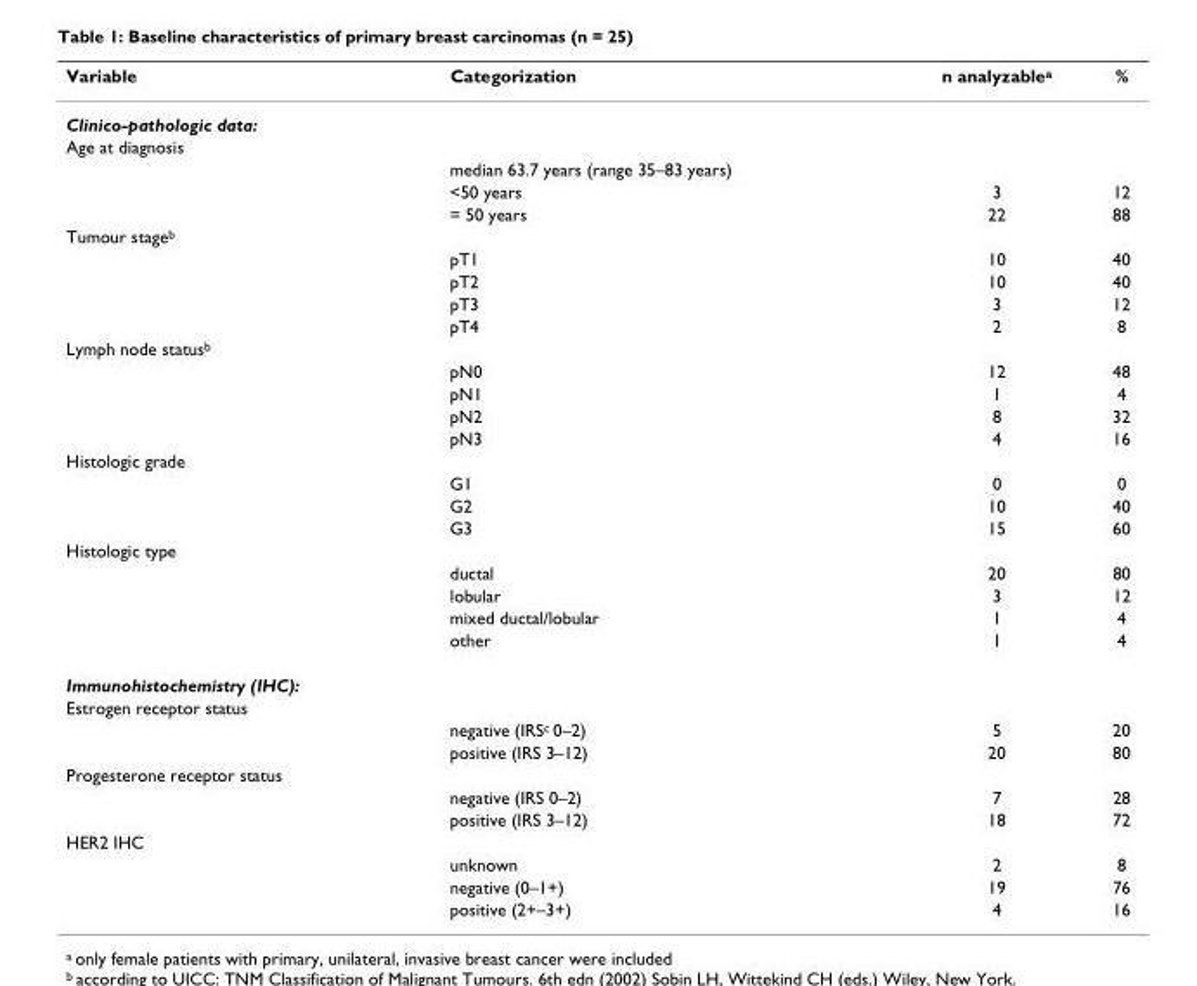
<table><thead><tr><td>Variable</td><td>Categorization</td><td>n analyzable<sup>a</sup></td><td>%</td></tr></thead><tbody><tr><td colspan="4">Clinico-pathologic data:</td></tr><tr><td colspan="4">Age at diagnosis</td></tr><tr><td></td><td>median 63.7 years (range 35–83 years)</td><td></td><td></td></tr><tr><td></td><td>&lt;50 years</td><td>3</td><td>12</td></tr><tr><td></td><td>= 50 years</td><td>22</td><td>88</td></tr><tr><td colspan="4">Tumour stage<sup>b</sup></td></tr><tr><td></td><td>pT1</td><td>10</td><td>40</td></tr><tr><td></td><td>pT2</td><td>10</td><td>40</td></tr><tr><td></td><td>pT3</td><td>3</td><td>12</td></tr><tr><td></td><td>pT4</td><td>2</td><td>8</td></tr><tr><td colspan="4">Lymph node status<sup>b</sup></td></tr><tr><td></td><td>pN0</td><td>12</td><td>48</td></tr><tr><td></td><td>pN1</td><td>1</td><td>4</td></tr><tr><td></td><td>pN2</td><td>8</td><td>32</td></tr><tr><td></td><td>pN3</td><td>4</td><td>16</td></tr><tr><td colspan="4">Histologic grade</td></tr><tr><td></td><td>G1</td><td>0</td><td>0</td></tr><tr><td></td><td>G2</td><td>10</td><td>40</td></tr><tr><td></td><td>G3</td><td>15</td><td>60</td></tr><tr><td colspan="4">Histologic type</td></tr><tr><td></td><td>ductal</td><td>20</td><td>80</td></tr><tr><td></td><td>lobular</td><td>3</td><td>12</td></tr><tr><td></td><td>mixed ductal/lobular</td><td>1</td><td>4</td></tr><tr><td></td><td>other</td><td>1</td><td>4</td></tr><tr><td colspan="4">Immunohistochemistry (IHC):</td></tr><tr><td colspan="4">Estrogen receptor status</td></tr><tr><td></td><td>negative (IRS<sup>c</sup> 0–2)</td><td>5</td><td>20</td></tr><tr><td></td><td>positive (IRS 3–12)</td><td>20</td><td>80</td></tr><tr><td colspan="4">Progesterone receptor status</td></tr><tr><td></td><td>negative (IRS 0–2)</td><td>7</td><td>28</td></tr><tr><td></td><td>positive (IRS 3–12)</td><td>18</td><td>72</td></tr><tr><td colspan="4">HER2 IHC</td></tr><tr><td></td><td>unknown</td><td>2</td><td>8</td></tr><tr><td></td><td>negative (0–1+)</td><td>19</td><td>76</td></tr><tr><td></td><td>positive (2+–3+)</td><td>4</td><td>16</td></tr></tbody></table>